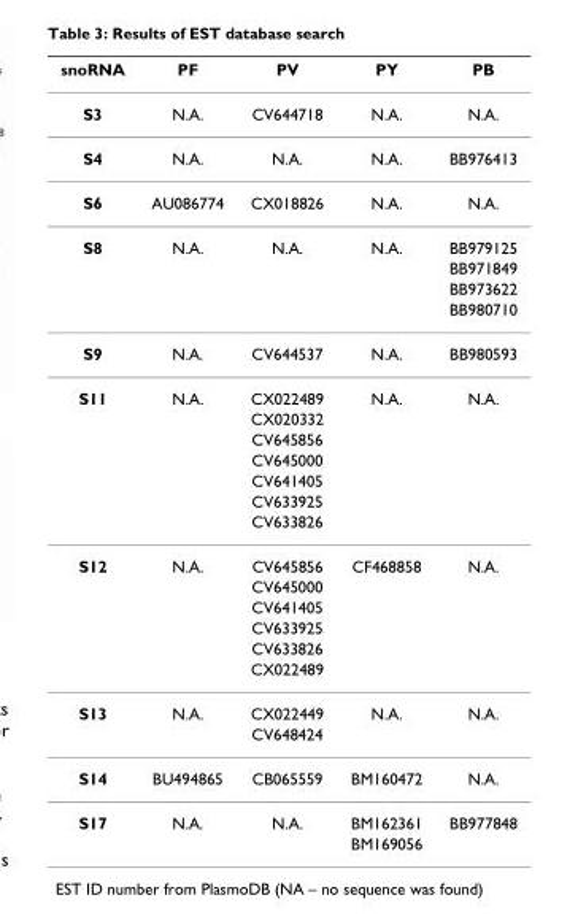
<table><thead><tr><td>snoRNA</td><td>PF</td><td>PV</td><td>PY</td><td>PB</td></tr></thead><tbody><tr><td>S3</td><td>N.A.</td><td>CV644718</td><td>N.A.</td><td>N.A.</td></tr><tr><td>S4</td><td>N.A.</td><td>N.A.</td><td>N.A.</td><td>BB976413</td></tr><tr><td>S6</td><td>AU086774</td><td>CX018826</td><td>N.A.</td><td>N.A.</td></tr><tr><td rowspan="4">S8</td><td>N.A.</td><td>N.A.</td><td>N.A.</td><td>BB979125</td></tr><tr><td></td><td></td><td></td><td>BB971849</td></tr><tr><td></td><td></td><td></td><td>BB973622</td></tr><tr><td></td><td></td><td></td><td>BB980710</td></tr><tr><td>S9</td><td>N.A.</td><td>CV644537</td><td>N.A.</td><td>BB980593</td></tr><tr><td rowspan="7">S11</td><td>N.A.</td><td>CX022489</td><td>N.A.</td><td>N.A.</td></tr><tr><td></td><td>CX020332</td><td></td><td></td></tr><tr><td></td><td>CV645856</td><td></td><td></td></tr><tr><td></td><td>CV645000</td><td></td><td></td></tr><tr><td></td><td>CV641405</td><td></td><td></td></tr><tr><td></td><td>CV633925</td><td></td><td></td></tr><tr><td></td><td>CV633826</td><td></td><td></td></tr><tr><td rowspan="6">S12</td><td>N.A.</td><td>CV645856</td><td>CF468858</td><td>N.A.</td></tr><tr><td></td><td>CV645000</td><td></td><td></td></tr><tr><td></td><td>CV641405</td><td></td><td></td></tr><tr><td></td><td>CV633925</td><td></td><td></td></tr><tr><td></td><td>CV633826</td><td></td><td></td></tr><tr><td></td><td>CX022489</td><td></td><td></td></tr><tr><td rowspan="2">S13</td><td>N.A.</td><td>CX022449</td><td>N.A.</td><td>N.A.</td></tr><tr><td></td><td>CV648424</td><td></td><td></td></tr><tr><td>S14</td><td>BU494865</td><td>CB065559</td><td>BM160472</td><td>N.A.</td></tr><tr><td rowspan="2">S17</td><td>N.A.</td><td>N.A.</td><td>BM162361</td><td>BB977848</td></tr><tr><td></td><td></td><td>BM169056</td><td></td></tr></tbody></table>